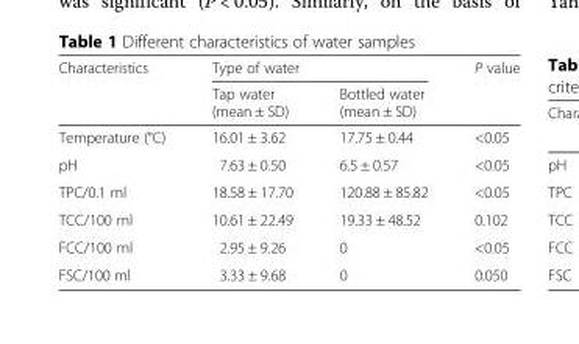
<table><thead><tr><td rowspan="2">Characteristics</td><td colspan="2">Type of water</td><td rowspan="2">P value</td></tr><tr><td>Tap water (mean ± SD)</td><td>Bottled water (mean ± SD)</td></tr></thead><tbody><tr><td>Temperature (°C)</td><td>16.01 ± 3.62</td><td>17.75 ± 0.44</td><td>&lt;0.05</td></tr><tr><td>pH</td><td>7.63 ± 0.50</td><td>6.5 ± 0.57</td><td>&lt;0.05</td></tr><tr><td>TPC/0.1 ml</td><td>18.58 ± 17.70</td><td>120.88 ± 85.82</td><td>&lt;0.05</td></tr><tr><td>TCC/100 ml</td><td>10.61 ± 22.49</td><td>19.33 ± 48.52</td><td>0.102</td></tr><tr><td>FCC/100 ml</td><td>2.95 ± 9.26</td><td>0</td><td>&lt;0.05</td></tr><tr><td>FSC/100 ml</td><td>3.33 ± 9.68</td><td>0</td><td>0.050</td></tr></tbody></table>